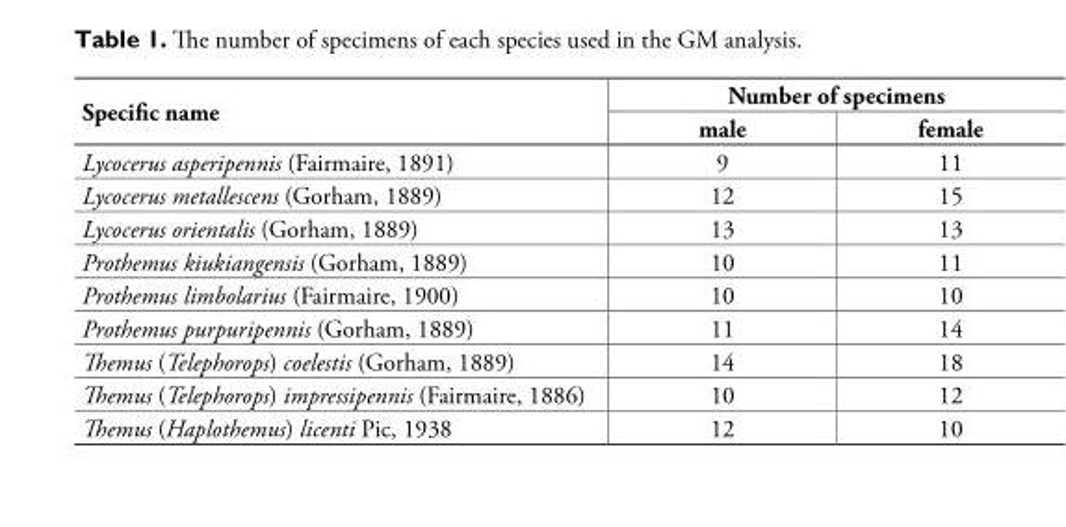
<table><thead><tr><td rowspan="2">Specific name</td><td colspan="2">Number of specimens</td></tr><tr><td>male</td><td>female</td></tr></thead><tbody><tr><td>Lycocerus asperipennis (Fairmaire, 1891)</td><td>9</td><td>11</td></tr><tr><td>Lycocerus metallescens (Gorham, 1889)</td><td>12</td><td>15</td></tr><tr><td>Lycocerus orientalis (Gorham, 1889)</td><td>13</td><td>13</td></tr><tr><td>Prothemus kiukiangensis (Gorham, 1889)</td><td>10</td><td>11</td></tr><tr><td>Prothemus limbolarius (Fairmaire, 1900)</td><td>10</td><td>10</td></tr><tr><td>Prothemus purpuripennis (Gorham, 1889)</td><td>11</td><td>14</td></tr><tr><td>Themus (Telephorops) coelestis (Gorham, 1889)</td><td>14</td><td>18</td></tr><tr><td>Themus (Telephorops) impressipennis (Fairmaire, 1886)</td><td>10</td><td>12</td></tr><tr><td>Themus (Haplothemus) licenti Pic, 1938</td><td>12</td><td>10</td></tr></tbody></table>